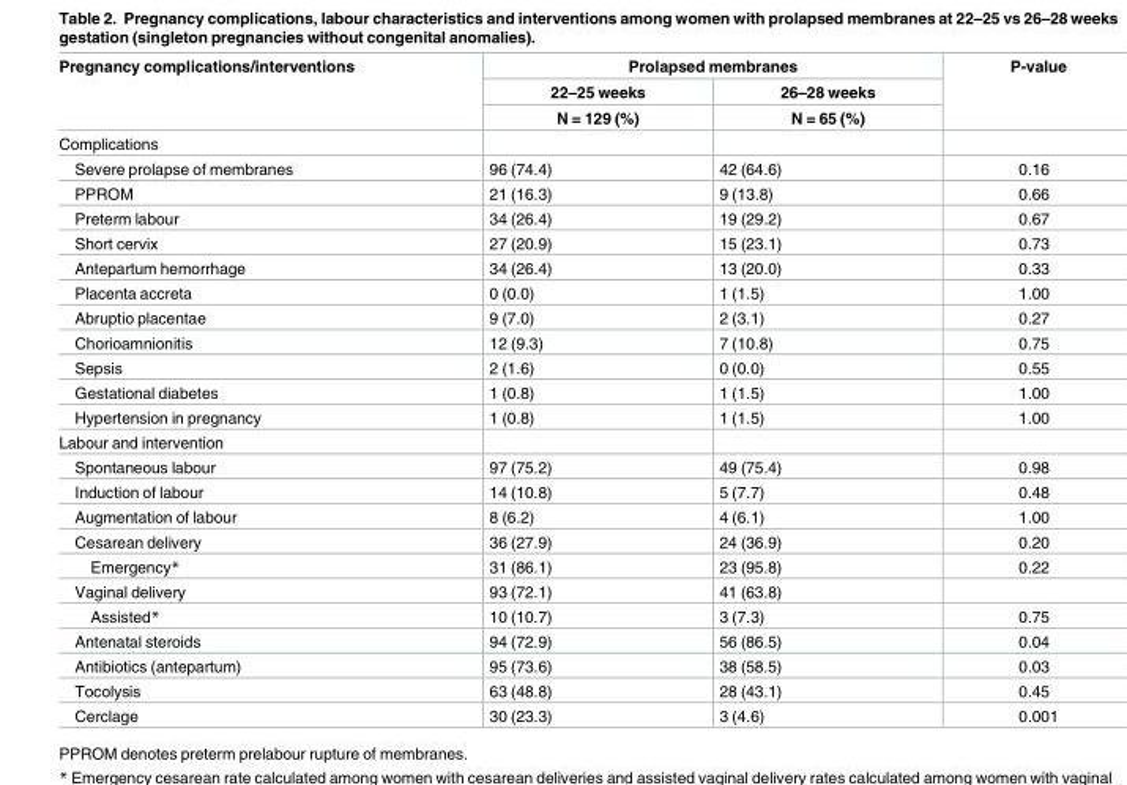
<table><thead><tr><td rowspan="3">Pregnancy complications/interventions</td><td colspan="2">Prolapsed membranes</td><td rowspan="3">P-value</td></tr><tr><td rowspan="2">22–25 weeks N = 129 (%)</td><td rowspan="2">26–28 weeks N = 65 (%)</td></tr><tr></tr></thead><tbody><tr><td colspan="4">Complications</td></tr><tr><td>Severe prolapse of membranes</td><td>96 (74.4)</td><td>42 (64.6)</td><td>0.16</td></tr><tr><td>PPROM</td><td>21 (16.3)</td><td>9 (13.8)</td><td>0.66</td></tr><tr><td>Preterm labour</td><td>34 (26.4)</td><td>19 (29.2)</td><td>0.67</td></tr><tr><td>Short cervix</td><td>27 (20.9)</td><td>15 (23.1)</td><td>0.73</td></tr><tr><td>Antepartum hemorrhage</td><td>34 (26.4)</td><td>13 (20.0)</td><td>0.33</td></tr><tr><td>Placenta accreta</td><td>0 (0.0)</td><td>1 (1.5)</td><td>1.00</td></tr><tr><td>Abruptio placentae</td><td>9 (7.0)</td><td>2 (3.1)</td><td>0.27</td></tr><tr><td>Chorioamnionitis</td><td>12 (9.3)</td><td>7 (10.8)</td><td>0.75</td></tr><tr><td>Sepsis</td><td>2 (1.6)</td><td>0 (0.0)</td><td>0.55</td></tr><tr><td>Gestational diabetes</td><td>1 (0.8)</td><td>1 (1.5)</td><td>1.00</td></tr><tr><td>Hypertension in pregnancy</td><td>1 (0.8)</td><td>1 (1.5)</td><td>1.00</td></tr><tr><td colspan="4">Labour and intervention</td></tr><tr><td>Spontaneous labour</td><td>97 (75.2)</td><td>49 (75.4)</td><td>0.98</td></tr><tr><td>Induction of labour</td><td>14 (10.8)</td><td>5 (7.7)</td><td>0.48</td></tr><tr><td>Augmentation of labour</td><td>8 (6.2)</td><td>4 (6.1)</td><td>1.00</td></tr><tr><td>Cesarean delivery</td><td>36 (27.9)</td><td>24 (36.9)</td><td>0.20</td></tr><tr><td>Emergency*</td><td>31 (86.1)</td><td>23 (95.8)</td><td>0.22</td></tr><tr><td>Vaginal delivery</td><td>93 (72.1)</td><td>41 (63.8)</td><td></td></tr><tr><td>Assisted*</td><td>10 (10.7)</td><td>3 (7.3)</td><td>0.75</td></tr><tr><td>Antenatal steroids</td><td>94 (72.9)</td><td>56 (86.5)</td><td>0.04</td></tr><tr><td>Antibiotics (antepartum)</td><td>95 (73.6)</td><td>38 (58.5)</td><td>0.03</td></tr><tr><td>Tocolysis</td><td>63 (48.8)</td><td>28 (43.1)</td><td>0.45</td></tr><tr><td>Cerclage</td><td>30 (23.3)</td><td>3 (4.6)</td><td>0.001</td></tr></tbody></table>